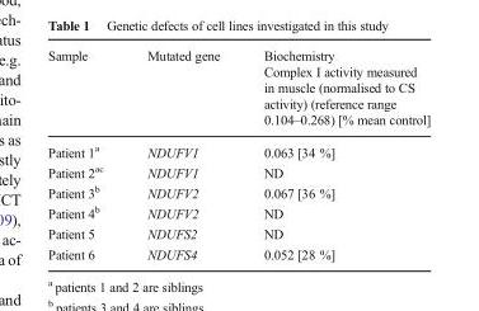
<table><thead><tr><td>Sample</td><td>Mutated gene</td><td>Biochemistry Complex I activity measured in muscle (normalised to CS activity) (reference range 0.104–0.268) [% mean control]</td></tr></thead><tbody><tr><td>Patient 1<sup>a</sup></td><td>NDUFV1</td><td>0.063 [34 %]</td></tr><tr><td>Patient 2<sup>ac</sup></td><td>NDUFV1</td><td>ND</td></tr><tr><td>Patient 3<sup>b</sup></td><td>NDUFV2</td><td>0.067 [36 %]</td></tr><tr><td>Patient 4<sup>b</sup></td><td>NDUFV2</td><td>ND</td></tr><tr><td>Patient 5</td><td>NDUFS2</td><td>ND</td></tr><tr><td>Patient 6</td><td>NDUFS4</td><td>0.052 [28 %]</td></tr></tbody></table>